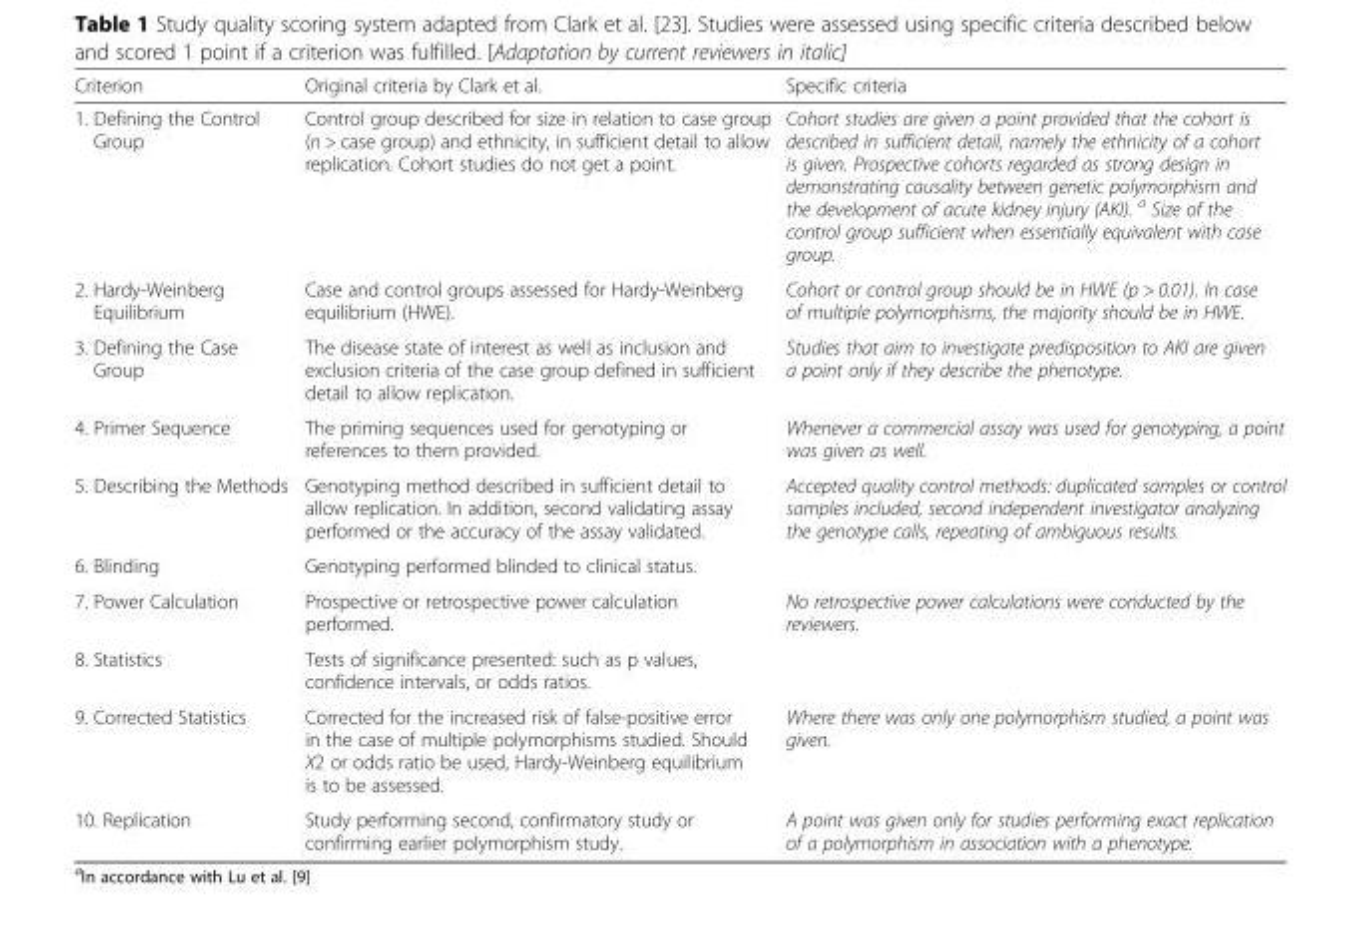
<table><thead><tr><td>Criterion</td><td>Original criteria by Clark et al.</td><td>Specific criteria</td></tr></thead><tbody><tr><td>1. Defining the Control Group</td><td>Control group described for size in relation to case group (n &gt; case group) and ethnicity, in sufficient detail to allow replication. Cohort studies do not get a point.</td><td>Cohort studies are given a point provided that the cohort is described in sufficient detail, namely the ethnicity of a cohort is given. Prospective cohorts regarded as strong design in demonstrating causality between genetic polymorphism and the development of acute kidney injury (AKI). <sup>a</sup> Size of the control group sufficient when essentially equivalent with case group.</td></tr><tr><td>2. Hardy-Weinberg Equilibrium</td><td>Case and control groups assessed for Hardy-Weinberg equilibrium (HWE).</td><td>Cohort or control group should be in HWE (p &gt; 0.01). In case of multiple polymorphisms, the majority should be in HWE.</td></tr><tr><td>3. Defining the Case Group</td><td>The disease state of interest as well as inclusion and exclusion criteria of the case group defined in sufficient detail to allow replication.</td><td>Studies that aim to investigate predisposition to AKI are given a point only if they describe the phenotype.</td></tr><tr><td>4. Primer Sequence</td><td>The priming sequences used for genotyping or references to them provided.</td><td>Whenever a commercial assay was used for genotyping, a point was given as well.</td></tr><tr><td>5. Describing the Methods</td><td>Genotyping method described in sufficient detail to allow replication. In addition, second validating assay performed or the accuracy of the assay validated.</td><td>Accepted quality control methods: duplicated samples or control samples included, second independent investigator analyzing the genotype calls, repeating of ambiguous results.</td></tr><tr><td>6. Blinding</td><td>Genotyping performed blinded to clinical status.</td><td></td></tr><tr><td>7. Power Calculation</td><td>Prospective or retrospective power calculation performed.</td><td>No retrospective power calculations were conducted by the reviewers.</td></tr><tr><td>8. Statistics</td><td>Tests of significance presented: such as p values, confidence intervals, or odds ratios.</td><td></td></tr><tr><td>9. Corrected Statistics</td><td>Corrected for the increased risk of false-positive error in the case of multiple polymorphisms studied. Should X2 or odds ratio be used, Hardy-Weinberg equilibrium is to be assessed.</td><td>Where there was only one polymorphism studied, a point was given.</td></tr><tr><td>10. Replication</td><td>Study performing second, confirmatory study or confirming earlier polymorphism study.</td><td>A point was given only for studies performing exact replication of a polymorphism in association with a phenotype.</td></tr></tbody></table>